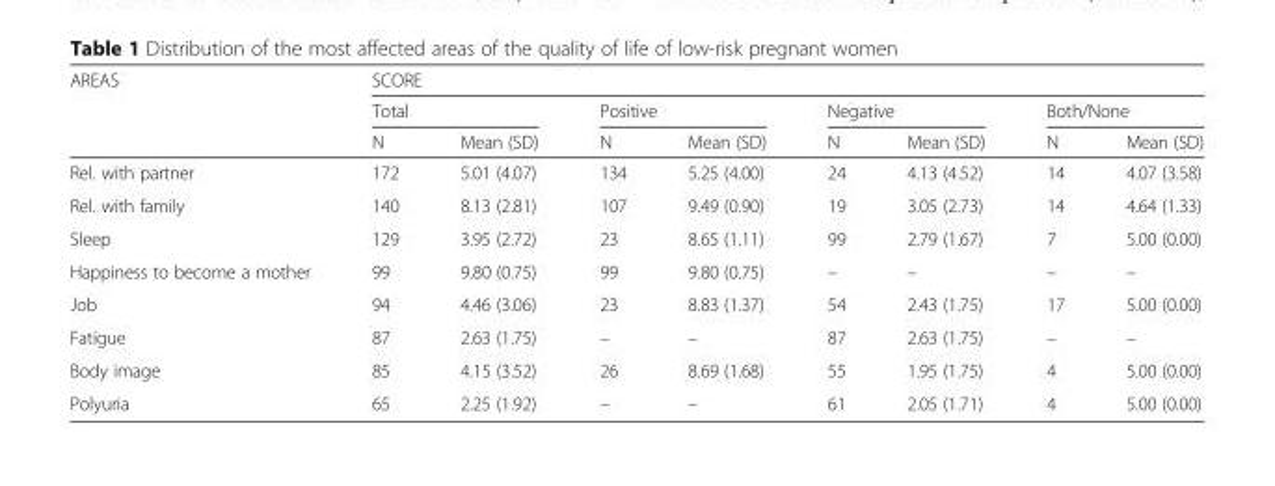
<table><thead><tr><td rowspan="3">AREAS</td><td colspan="8">SCORE</td></tr><tr><td colspan="2">Total</td><td colspan="2">Positive</td><td colspan="2">Negative</td><td colspan="2">Both/None</td></tr><tr><td>N</td><td>Mean (SD)</td><td>N</td><td>Mean (SD)</td><td>N</td><td>Mean (SD)</td><td>N</td><td>Mean (SD)</td></tr></thead><tbody><tr><td>Rel. with partner</td><td>172</td><td>5.01 (4.07)</td><td>134</td><td>5.25 (4.00)</td><td>24</td><td>4.13 (4.52)</td><td>14</td><td>4.07 (3.58)</td></tr><tr><td>Rel. with family</td><td>140</td><td>8.13 (2.81)</td><td>107</td><td>9.49 (0.90)</td><td>19</td><td>3.05 (2.73)</td><td>14</td><td>4.64 (1.33)</td></tr><tr><td>Sleep</td><td>129</td><td>3.95 (2.72)</td><td>23</td><td>8.65 (1.11)</td><td>99</td><td>2.79 (1.67)</td><td>7</td><td>5.00 (0.00)</td></tr><tr><td>Happiness to become a mother</td><td>99</td><td>9.80 (0.75)</td><td>99</td><td>9.80 (0.75)</td><td>–</td><td>–</td><td>–</td><td>–</td></tr><tr><td>Job</td><td>94</td><td>4.46 (3.06)</td><td>23</td><td>8.83 (1.37)</td><td>54</td><td>2.43 (1.75)</td><td>17</td><td>5.00 (0.00)</td></tr><tr><td>Fatigue</td><td>87</td><td>2.63 (1.75)</td><td>–</td><td>–</td><td>87</td><td>2.63 (1.75)</td><td>–</td><td>–</td></tr><tr><td>Body image</td><td>85</td><td>4.15 (3.52)</td><td>26</td><td>8.69 (1.68)</td><td>55</td><td>1.95 (1.75)</td><td>4</td><td>5.00 (0.00)</td></tr><tr><td>Polyuria</td><td>65</td><td>2.25 (1.92)</td><td>–</td><td>–</td><td>61</td><td>2.05 (1.71)</td><td>4</td><td>5.00 (0.00)</td></tr></tbody></table>